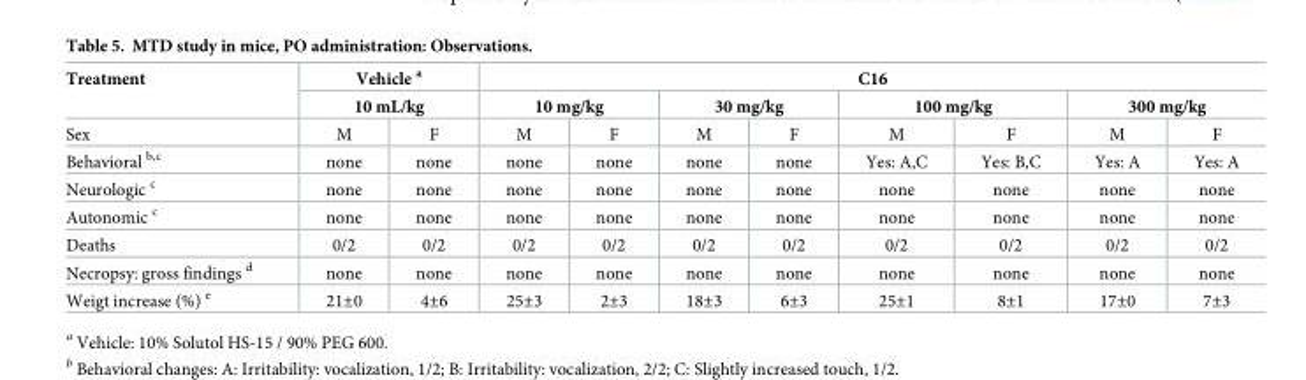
<table><thead><tr><td rowspan="3">Treatment Sex</td><td rowspan="2" colspan="2">Vehicle <sup>a</sup> 10 mL/kg</td><td colspan="8">C16</td></tr><tr><td colspan="2">10 mg/kg</td><td colspan="2">30 mg/kg</td><td colspan="2">100 mg/kg</td><td colspan="2">300 mg/kg</td></tr><tr><td>M</td><td>F</td><td>M</td><td>F</td><td>M</td><td>F</td><td>M</td><td>F</td><td>M</td><td>F</td></tr></thead><tbody><tr><td>Behavioral <sup>b,c</sup></td><td>none</td><td>none</td><td>none</td><td>none</td><td>none</td><td>none</td><td>Yes: A,C</td><td>Yes: B,C</td><td>Yes: A</td><td>Yes: A</td></tr><tr><td>Neurologic <sup>c</sup></td><td>none</td><td>none</td><td>none</td><td>none</td><td>none</td><td>none</td><td>none</td><td>none</td><td>none</td><td>none</td></tr><tr><td>Autonomic <sup>c</sup></td><td>none</td><td>none</td><td>none</td><td>none</td><td>none</td><td>none</td><td>none</td><td>none</td><td>none</td><td>none</td></tr><tr><td>Deaths</td><td>0/2</td><td>0/2</td><td>0/2</td><td>0/2</td><td>0/2</td><td>0/2</td><td>0/2</td><td>0/2</td><td>0/2</td><td>0/2</td></tr><tr><td>Necropsy: gross findings <sup>d</sup></td><td>none</td><td>none</td><td>none</td><td>none</td><td>none</td><td>none</td><td>none</td><td>none</td><td>none</td><td>none</td></tr><tr><td>Weigt increase (%) <sup>e</sup></td><td>21±0</td><td>4±6</td><td>25±3</td><td>2±3</td><td>18±3</td><td>6±3</td><td>25±1</td><td>8±1</td><td>17±0</td><td>7±3</td></tr></tbody></table>